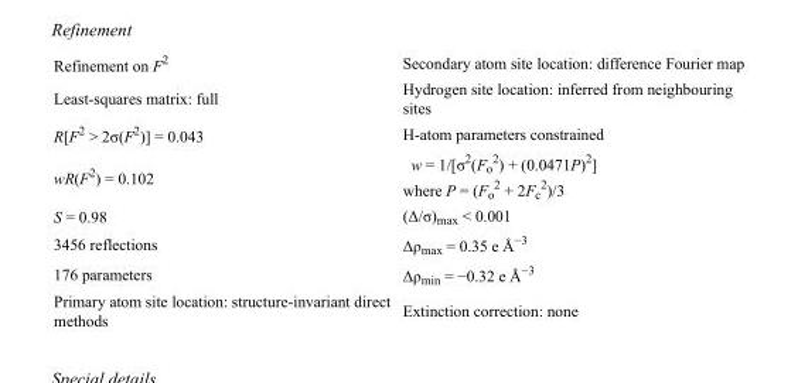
<table><tbody><tr><td>Refinement on F<sup>2</sup></td><td>Secondary atom site location: difference Fourier map</td></tr><tr><td>Least-squares matrix: full</td><td>Hydrogen site location: inferred from neighbouring sites</td></tr><tr><td>R[F<sup>2</sup> &gt; 2σ(F<sup>2</sup>)] = 0.043</td><td>H-atom parameters constrained</td></tr><tr><td>wR(F<sup>2</sup>) = 0.102</td><td>w = 1/[σ<sup>2</sup>(F<sub>o</sub> <sup>2</sup>) + (0.0471P)<sup>2</sup>] where P = (F<sub>o</sub> <sup>2</sup> + 2F<sub>c</sub> <sup>2</sup>)/3</td></tr><tr><td>S = 0.98</td><td>(Δ/σ)<sub>max</sub> &lt; 0.001</td></tr><tr><td>3456 reflections</td><td>Δρ<sub>max</sub> = 0.35 e Å<sup>−3</sup></td></tr><tr><td>176 parameters</td><td>Δρ<sub>min</sub> = −0.32 e Å<sup>−3</sup></td></tr><tr><td>Primary atom site location: structure-invariant direct methods</td><td>Extinction correction: none</td></tr></tbody></table>